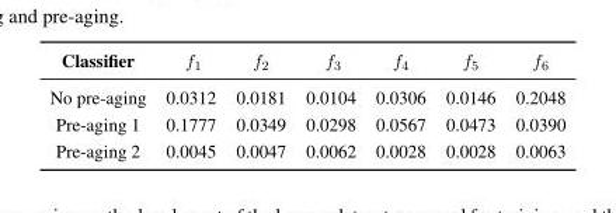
<table><thead><tr><td>Classifier</td><td>f<sub>1</sub></td><td>f<sub>2</sub></td><td>f<sub>3</sub></td><td>f<sub>4</sub></td><td>f<sub>5</sub></td><td>f<sub>6</sub></td></tr></thead><tbody><tr><td>No pre-aging</td><td>0.0312</td><td>0.0181</td><td>0.0104</td><td>0.0306</td><td>0.0146</td><td>0.2048</td></tr><tr><td>Pre-aging 1</td><td>0.1777</td><td>0.0349</td><td>0.0298</td><td>0.0567</td><td>0.0473</td><td>0.0390</td></tr><tr><td>Pre-aging 2</td><td>0.0045</td><td>0.0047</td><td>0.0062</td><td>0.0028</td><td>0.0028</td><td>0.0063</td></tr></tbody></table>